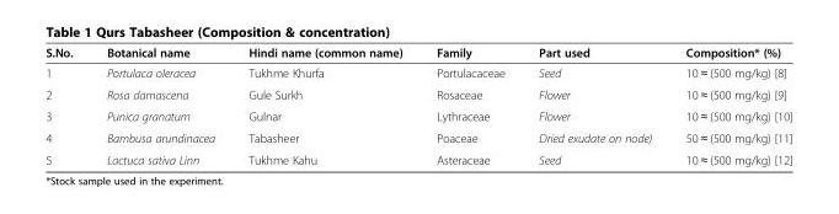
<table><thead><tr><td>S.No.</td><td>Botanical name</td><td>Hindi name (common name)</td><td>Family</td><td>Part used</td><td>Composition* (%)</td></tr></thead><tbody><tr><td>1</td><td>Portulaca oleracea</td><td>Tukhme Khurfa</td><td>Portulacaceae</td><td>Seed</td><td>10 ≈ (500 mg/kg) [8]</td></tr><tr><td>2</td><td>Rosa damascena</td><td>Gule Surkh</td><td>Rosaceae</td><td>Flower</td><td>10 ≈ (500 mg/kg) [9]</td></tr><tr><td>3</td><td>Punica granatum</td><td>Gulnar</td><td>Lythraceae</td><td>Flower</td><td>10 ≈ (500 mg/kg) [10]</td></tr><tr><td>4</td><td>Bambusa arundinacea</td><td>Tabasheer</td><td>Poaceae</td><td>Dried exudate on node)</td><td>50 ≈ (500 mg/kg) [11]</td></tr><tr><td>5</td><td>Lactuca sativa Linn</td><td>Tukhme Kahu</td><td>Asteraceae</td><td>Seed</td><td>10 ≈ (500 mg/kg) [12]</td></tr></tbody></table>